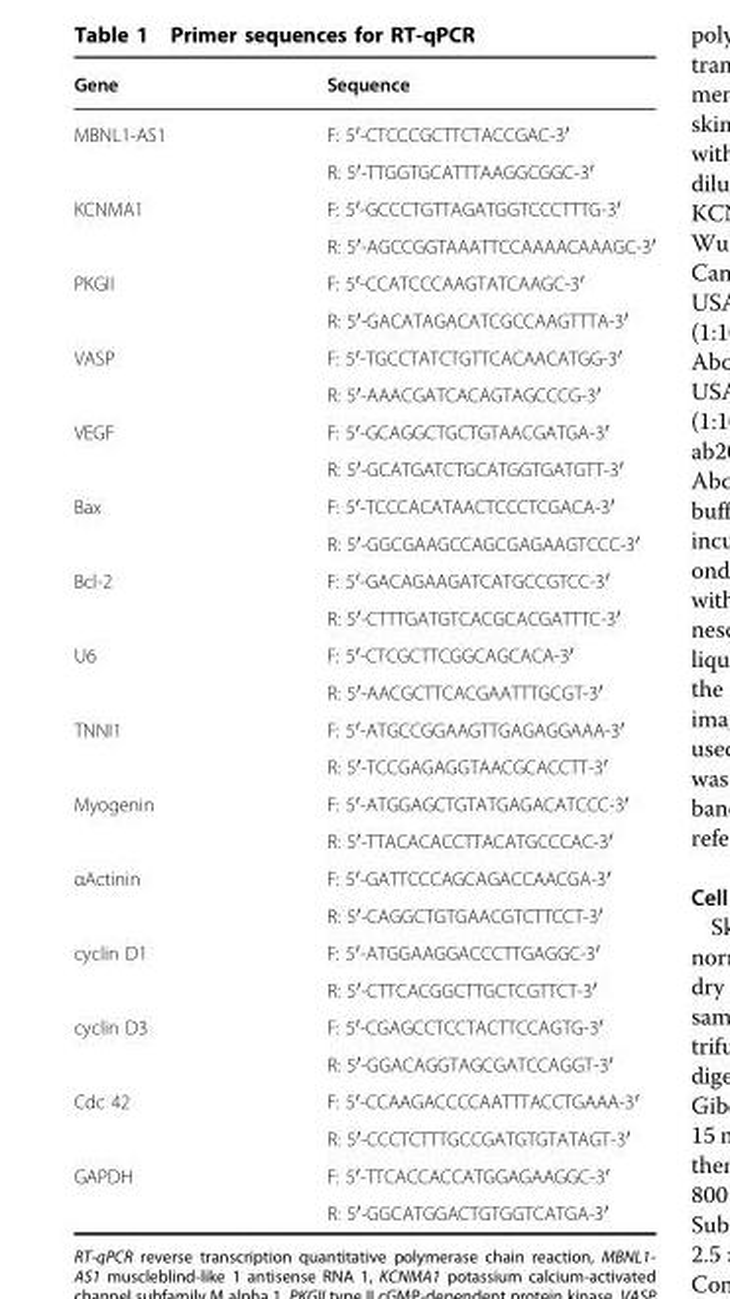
<table><thead><tr><td>Gene</td><td>Sequence</td></tr></thead><tbody><tr><td rowspan="2">MBNL1-AS1</td><td>F: 5′-CTCCCGCTTCTACCGAC-3′</td></tr><tr><td>R: 5′-TTGGTGCATTTAAGGCGGC-3′</td></tr><tr><td rowspan="2">KCNMA1</td><td>F: 5′-GCCCTGTTAGATGGTCCCTTTG-3′</td></tr><tr><td>R: 5′-AGCCGGTAAATTCCAAAACAAAGC-3′</td></tr><tr><td rowspan="2">PKGII</td><td>F: 5′-CCATCCCAAGTATCAAGC-3′</td></tr><tr><td>R: 5′-GACATAGACATCGCCAAGTTTA-3′</td></tr><tr><td rowspan="2">VASP</td><td>F: 5′-TGCCTATCTGTTCACAACATGG-3′</td></tr><tr><td>R: 5′-AAACGATCACAGTAGCCCG-3′</td></tr><tr><td rowspan="2">VEGF</td><td>F: 5′-GCAGGCTGCTGTAACGATGA-3′</td></tr><tr><td>R: 5′-GCATGATCTGCATGGTGATGTT-3′</td></tr><tr><td rowspan="2">Bax</td><td>F: 5′-TCCCACATAACTCCCTCGACA-3′</td></tr><tr><td>R: 5′-GGCGAAGCCAGCGAGAAGTCCC-3′</td></tr><tr><td rowspan="2">Bcl-2</td><td>F: 5′-GACAGAAGATCATGCCGTCC-3′</td></tr><tr><td>R: 5′-CTTTGATGTCACGCACGATTTC-3′</td></tr><tr><td rowspan="2">U6</td><td>F: 5′-CTCGCTTCGGCAGCACA-3′</td></tr><tr><td>R: 5′-AACGCTTCACGAATTTGCGT-3′</td></tr><tr><td rowspan="2">TNNI1</td><td>F: 5′-ATGCCGGAAGTTGAGAGGAAA-3′</td></tr><tr><td>R: 5′-TCCGAGAGGTAACGCACCTT-3′</td></tr><tr><td rowspan="2">Myogenin</td><td>F: 5′-ATGGAGCTGTATGAGACATCCC-3′</td></tr><tr><td>R: 5′-TTACACACCTTACATGCCCAC-3′</td></tr><tr><td rowspan="2">αActinin</td><td>F: 5′-GATTCCCAGCAGACCAACGA-3′</td></tr><tr><td>R: 5′-CAGGCTGTGAACGTCTTCCT-3′</td></tr><tr><td rowspan="2">cyclin D1</td><td>F: 5′-ATGGAAGGACCCTTGAGGC-3′</td></tr><tr><td>R: 5′-CTTCACGGCTTGCTCGTTCT-3′</td></tr><tr><td rowspan="2">cyclin D3</td><td>F: 5′-CGAGCCTCCTACTTCCAGTG-3′</td></tr><tr><td>R: 5′-GGACAGGTAGCGATCCAGGT-3′</td></tr><tr><td rowspan="2">Cdc 42</td><td>F: 5′-CCAAGACCCCAATTTACCTGAAA-3′</td></tr><tr><td>R: 5′-CCCTCTTTGCCGATGTGTATAGT-3′</td></tr><tr><td rowspan="2">GAPDH</td><td>F: 5′-TTCACCACCATGGAGAAGGC-3′</td></tr><tr><td>R: 5′-GGCATGGACTGTGGTCATGA-3′</td></tr></tbody></table>